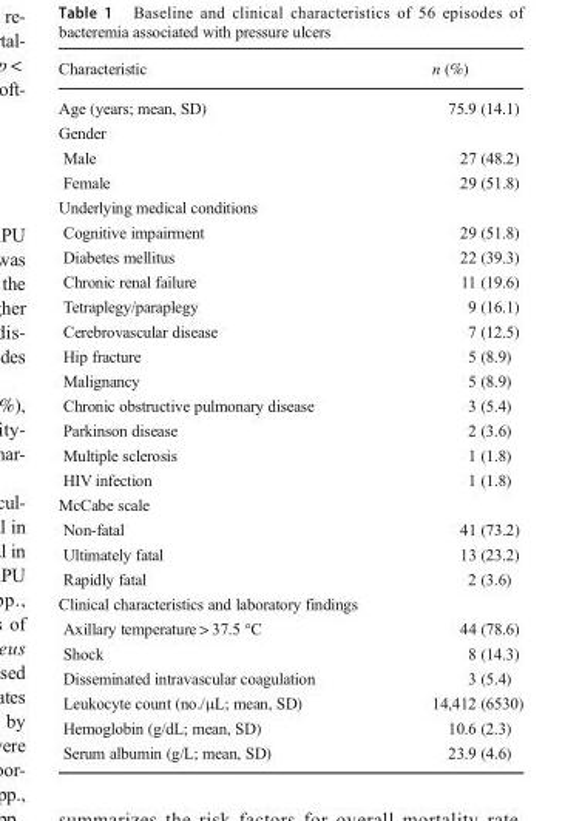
<table><thead><tr><td>Characteristic</td><td>n (%)</td></tr></thead><tbody><tr><td>Age (years; mean, SD)</td><td>75.9 (14.1)</td></tr><tr><td colspan="2">Gender</td></tr><tr><td>Male</td><td>27 (48.2)</td></tr><tr><td>Female</td><td>29 (51.8)</td></tr><tr><td colspan="2">Underlying medical conditions</td></tr><tr><td>Cognitive impairment</td><td>29 (51.8)</td></tr><tr><td>Diabetes mellitus</td><td>22 (39.3)</td></tr><tr><td>Chronic renal failure</td><td>11 (19.6)</td></tr><tr><td>Tetraplegy/paraplegy</td><td>9 (16.1)</td></tr><tr><td>Cerebrovascular disease</td><td>7 (12.5)</td></tr><tr><td>Hip fracture</td><td>5 (8.9)</td></tr><tr><td>Malignancy</td><td>5 (8.9)</td></tr><tr><td>Chronic obstructive pulmonary disease</td><td>3 (5.4)</td></tr><tr><td>Parkinson disease</td><td>2 (3.6)</td></tr><tr><td>Multiple sclerosis</td><td>1 (1.8)</td></tr><tr><td>HIV infection</td><td>1 (1.8)</td></tr><tr><td colspan="2">McCabe scale</td></tr><tr><td>Non-fatal</td><td>41 (73.2)</td></tr><tr><td>Ultimately fatal</td><td>13 (23.2)</td></tr><tr><td>Rapidly fatal</td><td>2 (3.6)</td></tr><tr><td colspan="2">Clinical characteristics and laboratory findings</td></tr><tr><td>Axillary temperature &gt; 37.5 °C</td><td>44 (78.6)</td></tr><tr><td>Shock</td><td>8 (14.3)</td></tr><tr><td>Disseminated intravascular coagulation</td><td>3 (5.4)</td></tr><tr><td>Leukocyte count (no./μL; mean, SD)</td><td>14,412 (6530)</td></tr><tr><td>Hemoglobin (g/dL; mean, SD)</td><td>10.6 (2.3)</td></tr><tr><td>Serum albumin (g/L; mean, SD)</td><td>23.9 (4.6)</td></tr></tbody></table>